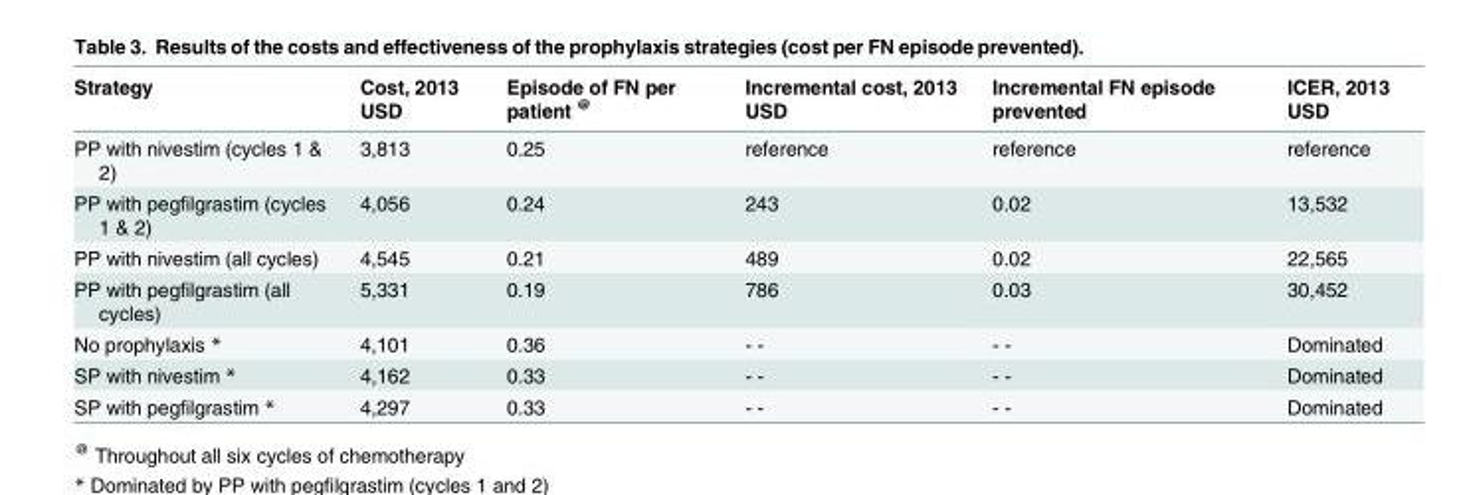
<table><thead><tr><td>Strategy</td><td>Cost, 2013 USD</td><td>Episode of FN per patient <sup>@</sup></td><td>Incremental cost, 2013 USD</td><td>Incremental FN episode prevented</td><td>ICER, 2013 USD</td></tr></thead><tbody><tr><td>PP with nivestim (cycles 1 &amp; 2)</td><td>3,813</td><td>0.25</td><td>reference</td><td>reference</td><td>reference</td></tr><tr><td>PP with pegfilgrastim (cycles 1 &amp; 2)</td><td>4,056</td><td>0.24</td><td>243</td><td>0.02</td><td>13,532</td></tr><tr><td>PP with nivestim (all cycles)</td><td>4,545</td><td>0.21</td><td>489</td><td>0.02</td><td>22,565</td></tr><tr><td>PP with pegfilgrastim (all cycles)</td><td>5,331</td><td>0.19</td><td>786</td><td>0.03</td><td>30,452</td></tr><tr><td>No prophylaxis *</td><td>4,101</td><td>0.36</td><td>- -</td><td>- -</td><td>Dominated</td></tr><tr><td>SP with nivestim *</td><td>4,162</td><td>0.33</td><td>- -</td><td>- -</td><td>Dominated</td></tr><tr><td>SP with pegfilgrastim *</td><td>4,297</td><td>0.33</td><td>- -</td><td>- -</td><td>Dominated</td></tr></tbody></table>